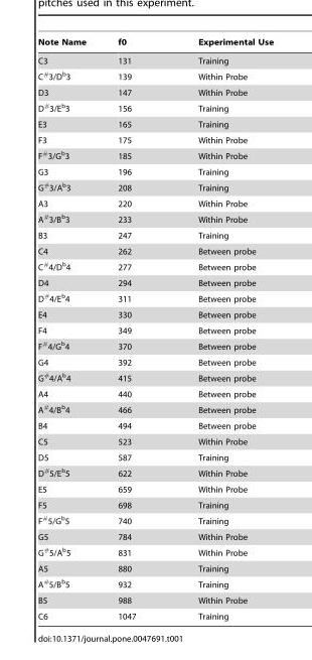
<table><thead><tr><td>Note Name</td><td>f0</td><td>Experimental Use</td></tr></thead><tbody><tr><td>C3</td><td>131</td><td>Training</td></tr><tr><td>C<sup>#</sup>3/D<sup>b</sup>3</td><td>139</td><td>Within Probe</td></tr><tr><td>D3</td><td>147</td><td>Within Probe</td></tr><tr><td>D<sup>#</sup>3/E<sup>b</sup>3</td><td>156</td><td>Training</td></tr><tr><td>E3</td><td>165</td><td>Training</td></tr><tr><td>F3</td><td>175</td><td>Within Probe</td></tr><tr><td>F<sup>#</sup>3/G<sup>b</sup>3</td><td>185</td><td>Within Probe</td></tr><tr><td>G3</td><td>196</td><td>Training</td></tr><tr><td>G<sup>#</sup>3/A<sup>b</sup>3</td><td>208</td><td>Training</td></tr><tr><td>A3</td><td>220</td><td>Within Probe</td></tr><tr><td>A<sup>#</sup>3/B<sup>b</sup>3</td><td>233</td><td>Within Probe</td></tr><tr><td>B3</td><td>247</td><td>Training</td></tr><tr><td>C4</td><td>262</td><td>Between probe</td></tr><tr><td>C<sup>#</sup>4/D<sup>b</sup>4</td><td>277</td><td>Between probe</td></tr><tr><td>D4</td><td>294</td><td>Between probe</td></tr><tr><td>D<sup>#</sup>4/E<sup>b</sup>4</td><td>311</td><td>Between probe</td></tr><tr><td>E4</td><td>330</td><td>Between probe</td></tr><tr><td>F4</td><td>349</td><td>Between probe</td></tr><tr><td>F<sup>#</sup>4/G<sup>b</sup>4</td><td>370</td><td>Between probe</td></tr><tr><td>G4</td><td>392</td><td>Between probe</td></tr><tr><td>G<sup>#</sup>4/A<sup>b</sup>4</td><td>415</td><td>Between probe</td></tr><tr><td>A4</td><td>440</td><td>Between probe</td></tr><tr><td>A<sup>#</sup>4/B<sup>b</sup>4</td><td>466</td><td>Between probe</td></tr><tr><td>B4</td><td>494</td><td>Between probe</td></tr><tr><td>C5</td><td>523</td><td>Within Probe</td></tr><tr><td>D5</td><td>587</td><td>Training</td></tr><tr><td>D<sup>#</sup>5/E<sup>b</sup>5</td><td>622</td><td>Within Probe</td></tr><tr><td>E5</td><td>659</td><td>Within Probe</td></tr><tr><td>F5</td><td>698</td><td>Training</td></tr><tr><td>F<sup>#</sup>5/G<sup>b</sup>5</td><td>740</td><td>Training</td></tr><tr><td>G5</td><td>784</td><td>Within Probe</td></tr><tr><td>G<sup>#</sup>5/A<sup>b</sup>5</td><td>831</td><td>Within Probe</td></tr><tr><td>A5</td><td>880</td><td>Training</td></tr><tr><td>A<sup>#</sup>5/B<sup>b</sup>5</td><td>932</td><td>Training</td></tr><tr><td>B5</td><td>988</td><td>Within Probe</td></tr><tr><td>C6</td><td>1047</td><td>Training</td></tr></tbody></table>